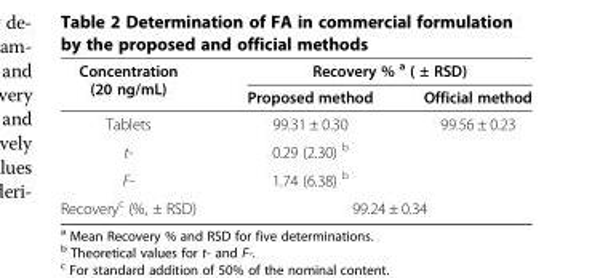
<table><thead><tr><td rowspan="2">Concentration (20 ng/mL)</td><td colspan="2">Recovery % <sup>a</sup> ( ± RSD)</td></tr><tr><td>Proposed method</td><td>Official method</td></tr></thead><tbody><tr><td>Tablets</td><td>99.31 ± 0.30</td><td>99.56 ± 0.23</td></tr><tr><td>t-</td><td>0.29 (2.30) <sup>b</sup></td><td rowspan="2"></td></tr><tr><td>F-</td><td>1.74 (6.38) <sup>b</sup></td></tr><tr><td>Recovery<sup>c</sup> (%, ± RSD)</td><td colspan="2">99.24 ± 0.34</td></tr></tbody></table>